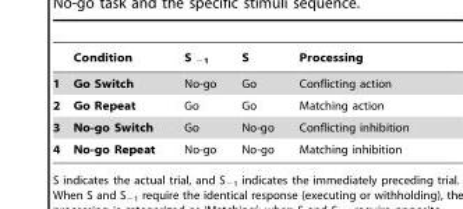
<table><thead><tr><td></td><td>Condition</td><td>S <sub>−1</sub></td><td>S</td><td>Processing</td></tr></thead><tbody><tr><td>1</td><td>Go Switch</td><td>No-go</td><td>Go</td><td>Conflicting action</td></tr><tr><td>2</td><td>Go Repeat</td><td>Go</td><td>Go</td><td>Matching action</td></tr><tr><td>3</td><td>No-go Switch</td><td>Go</td><td>No-go</td><td>Conflicting inhibition</td></tr><tr><td>4</td><td>No-go Repeat</td><td>No-go</td><td>No-go</td><td>Matching inhibition</td></tr></tbody></table>